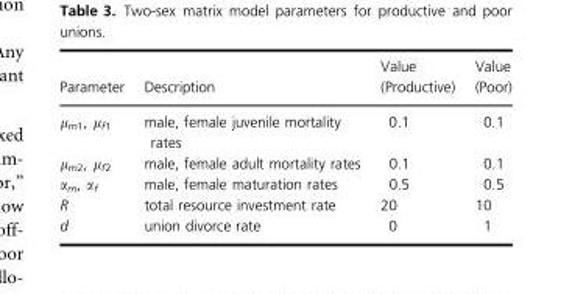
<table><thead><tr><td>Parameter</td><td>Description</td><td>Value (Productive)</td><td>Value (Poor)</td></tr></thead><tbody><tr><td>μ<sub>m1</sub>, μ<sub>f1</sub></td><td>male, female juvenile mortality rates</td><td>0.1</td><td>0.1</td></tr><tr><td>μ<sub>m2</sub>, μ<sub>f2</sub></td><td>male, female adult mortality rates</td><td>0.1</td><td>0.1</td></tr><tr><td>α<sub>m</sub>, α<sub>f</sub></td><td>male, female maturation rates</td><td>0.5</td><td>0.5</td></tr><tr><td>R</td><td>total resource investment rate</td><td>20</td><td>10</td></tr><tr><td>d</td><td>union divorce rate</td><td>0</td><td>1</td></tr></tbody></table>